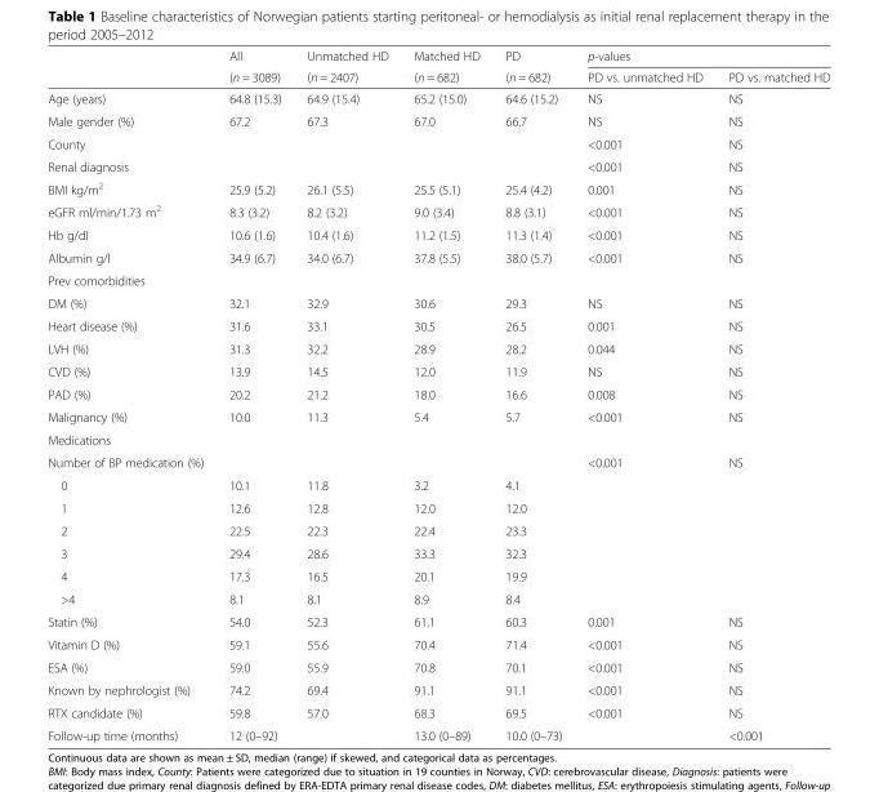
<table><thead><tr><td rowspan="2"></td><td rowspan="2">All (n = 3089)</td><td rowspan="2">Unmatched HD (n = 2407)</td><td rowspan="2">Matched HD (n = 682)</td><td rowspan="2">PD (n = 682)</td><td colspan="2">p-values</td></tr><tr><td>PD vs. unmatched HD</td><td>PD vs. matched HD</td></tr></thead><tbody><tr><td>Age (years)</td><td>64.8 (15.3)</td><td>64.9 (15.4)</td><td>65.2 (15.0)</td><td>64.6 (15.2)</td><td>NS</td><td>NS</td></tr><tr><td>Male gender (%)</td><td>67.2</td><td>67.3</td><td>67.0</td><td>66.7</td><td>NS</td><td>NS</td></tr><tr><td>County</td><td></td><td></td><td></td><td></td><td>&lt;0.001</td><td>NS</td></tr><tr><td>Renal diagnosis</td><td></td><td></td><td></td><td></td><td>&lt;0.001</td><td>NS</td></tr><tr><td>BMI kg/m<sup>2</sup></td><td>25.9 (5.2)</td><td>26.1 (5.5)</td><td>25.5 (5.1)</td><td>25.4 (4.2)</td><td>0.001</td><td>NS</td></tr><tr><td>eGFR ml/min/1.73 m<sup>2</sup></td><td>8.3 (3.2)</td><td>8.2 (3.2)</td><td>9.0 (3.4)</td><td>8.8 (3.1)</td><td>&lt;0.001</td><td>NS</td></tr><tr><td>Hb g/dl</td><td>10.6 (1.6)</td><td>10.4 (1.6)</td><td>11.2 (1.5)</td><td>11.3 (1.4)</td><td>&lt;0.001</td><td>NS</td></tr><tr><td>Albumin g/l</td><td>34.9 (6.7)</td><td>34.0 (6.7)</td><td>37.8 (5.5)</td><td>38.0 (5.7)</td><td>&lt;0.001</td><td>NS</td></tr><tr><td colspan="7">Prev comorbidities</td></tr><tr><td>DM (%)</td><td>32.1</td><td>32.9</td><td>30.6</td><td>29.3</td><td>NS</td><td>NS</td></tr><tr><td>Heart disease (%)</td><td>31.6</td><td>33.1</td><td>30.5</td><td>26.5</td><td>0.001</td><td>NS</td></tr><tr><td>LVH (%)</td><td>31.3</td><td>32.2</td><td>28.9</td><td>28.2</td><td>0.044</td><td>NS</td></tr><tr><td>CVD (%)</td><td>13.9</td><td>14.5</td><td>12.0</td><td>11.9</td><td>NS</td><td>NS</td></tr><tr><td>PAD (%)</td><td>20.2</td><td>21.2</td><td>18.0</td><td>16.6</td><td>0.008</td><td>NS</td></tr><tr><td>Malignancy (%)</td><td>10.0</td><td>11.3</td><td>5.4</td><td>5.7</td><td>&lt;0.001</td><td>NS</td></tr><tr><td colspan="7">Medications</td></tr><tr><td>Number of BP medication (%)</td><td></td><td></td><td></td><td></td><td>&lt;0.001</td><td>NS</td></tr><tr><td>0</td><td>10.1</td><td>11.8</td><td>3.2</td><td>4.1</td><td></td><td></td></tr><tr><td>1</td><td>12.6</td><td>12.8</td><td>12.0</td><td>12.0</td><td></td><td></td></tr><tr><td>2</td><td>22.5</td><td>22.3</td><td>22.4</td><td>23.3</td><td></td><td></td></tr><tr><td>3</td><td>29.4</td><td>28.6</td><td>33.3</td><td>32.3</td><td></td><td></td></tr><tr><td>4</td><td>17.3</td><td>16.5</td><td>20.1</td><td>19.9</td><td></td><td></td></tr><tr><td>&gt;4</td><td>8.1</td><td>8.1</td><td>8.9</td><td>8.4</td><td></td><td></td></tr><tr><td>Statin (%)</td><td>54.0</td><td>52.3</td><td>61.1</td><td>60.3</td><td>0.001</td><td>NS</td></tr><tr><td>Vitamin D (%)</td><td>59.1</td><td>55.6</td><td>70.4</td><td>71.4</td><td>&lt;0.001</td><td>NS</td></tr><tr><td>ESA (%)</td><td>59.0</td><td>55.9</td><td>70.8</td><td>70.1</td><td>&lt;0.001</td><td>NS</td></tr><tr><td>Known by nephrologist (%)</td><td>74.2</td><td>69.4</td><td>91.1</td><td>91.1</td><td>&lt;0.001</td><td>NS</td></tr><tr><td>RTX candidate (%)</td><td>59.8</td><td>57.0</td><td>68.3</td><td>69.5</td><td>&lt;0.001</td><td>NS</td></tr><tr><td>Follow-up time (months)</td><td>12 (0–92)</td><td></td><td>13.0 (0–89)</td><td>10.0 (0–73)</td><td></td><td>&lt;0.001</td></tr></tbody></table>